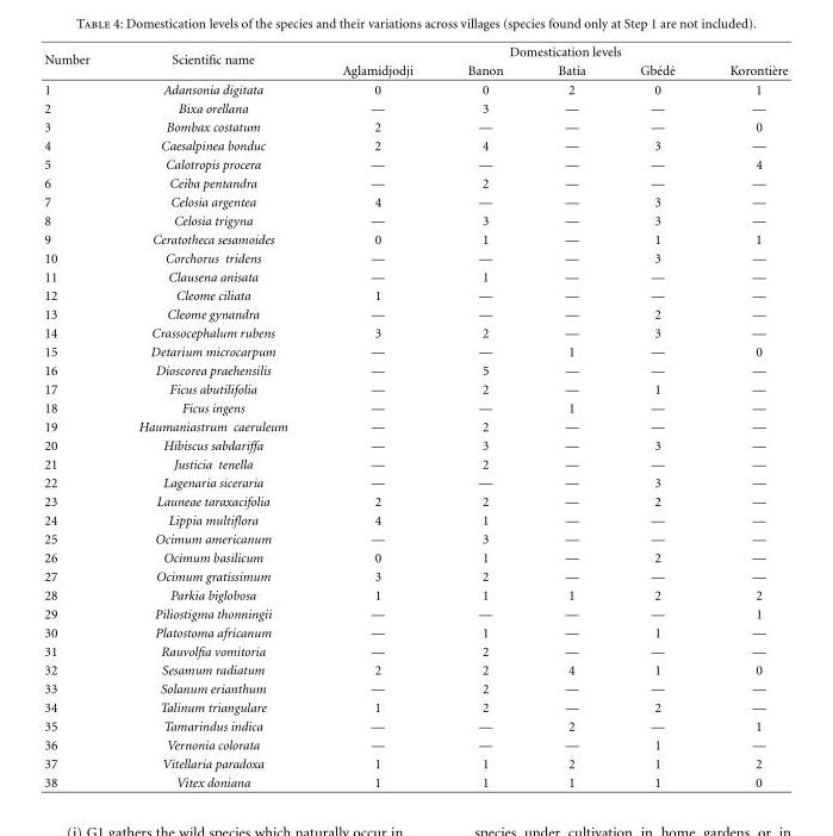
<table><thead><tr><td rowspan="2">Number</td><td rowspan="2">Scientific name</td><td colspan="5">Domestication levels</td></tr><tr><td>Aglamidjodji</td><td>Banon</td><td>Batia</td><td>Gb´ed´e</td><td>Koronti`ere</td></tr></thead><tbody><tr><td>1</td><td>Adansonia digitata</td><td>0</td><td>0</td><td>2</td><td>0</td><td>1</td></tr><tr><td>2</td><td>Bixa orellana</td><td>—</td><td>3</td><td>—</td><td>—</td><td>—</td></tr><tr><td>3</td><td>Bombax costatum</td><td>2</td><td>—</td><td>—</td><td>—</td><td>0</td></tr><tr><td>4</td><td>Caesalpinea bonduc</td><td>2</td><td>4</td><td>—</td><td>3</td><td>—</td></tr><tr><td>5</td><td>Calotropis procera</td><td>—</td><td>—</td><td>—</td><td>—</td><td>4</td></tr><tr><td>6</td><td>Ceiba pentandra</td><td>—</td><td>2</td><td>—</td><td>—</td><td>—</td></tr><tr><td>7</td><td>Celosia argentea</td><td>4</td><td>—</td><td>—</td><td>3</td><td>—</td></tr><tr><td>8</td><td>Celosia trigyna</td><td>—</td><td>3</td><td>—</td><td>3</td><td>—</td></tr><tr><td>9</td><td>Ceratotheca sesamoides</td><td>0</td><td>1</td><td>—</td><td>1</td><td>1</td></tr><tr><td>10</td><td>Corchorus tridens</td><td>—</td><td>—</td><td>—</td><td>3</td><td>—</td></tr><tr><td>11</td><td>Clausena anisata</td><td>—</td><td>1</td><td>—</td><td>—</td><td>—</td></tr><tr><td>12</td><td>Cleome ciliata</td><td>1</td><td>—</td><td>—</td><td>—</td><td>—</td></tr><tr><td>13</td><td>Cleome gynandra</td><td>—</td><td>—</td><td>—</td><td>2</td><td>—</td></tr><tr><td>14</td><td>Crassocephalum rubens</td><td>3</td><td>2</td><td>—</td><td>3</td><td>—</td></tr><tr><td>15</td><td>Detarium microcarpum</td><td>—</td><td>—</td><td>1</td><td>—</td><td>0</td></tr><tr><td>16</td><td>Dioscorea praehensilis</td><td>—</td><td>5</td><td>—</td><td>—</td><td>—</td></tr><tr><td>17</td><td>Ficus abutilifolia</td><td>—</td><td>2</td><td>—</td><td>1</td><td>—</td></tr><tr><td>18</td><td>Ficus ingens</td><td>—</td><td>—</td><td>1</td><td>—</td><td>—</td></tr><tr><td>19</td><td>Haumaniastrum caeruleum</td><td>—</td><td>2</td><td>—</td><td>—</td><td>—</td></tr><tr><td>20</td><td>Hibiscus sabdariffa</td><td>—</td><td>3</td><td>—</td><td>3</td><td>—</td></tr><tr><td>21</td><td>Justicia tenella</td><td>—</td><td>2</td><td>—</td><td>—</td><td>—</td></tr><tr><td>22</td><td>Lagenaria siceraria</td><td>—</td><td>—</td><td>—</td><td>3</td><td>—</td></tr><tr><td>23</td><td>Launeae taraxacifolia</td><td>2</td><td>2</td><td>—</td><td>2</td><td>—</td></tr><tr><td>24</td><td>Lippia multiflora</td><td>4</td><td>1</td><td>—</td><td>—</td><td>—</td></tr><tr><td>25</td><td>Ocimum americanum</td><td>—</td><td>3</td><td>—</td><td>—</td><td>—</td></tr><tr><td>26</td><td>Ocimum basilicum</td><td>0</td><td>1</td><td>—</td><td>2</td><td>—</td></tr><tr><td>27</td><td>Ocimum gratissimum</td><td>3</td><td>2</td><td>—</td><td>—</td><td>—</td></tr><tr><td>28</td><td>Parkia biglobosa</td><td>1</td><td>1</td><td>1</td><td>2</td><td>2</td></tr><tr><td>29</td><td>Piliostigma thonningii</td><td>—</td><td>—</td><td>—</td><td>—</td><td>1</td></tr><tr><td>30</td><td>Platostoma africanum</td><td>—</td><td>1</td><td>—</td><td>1</td><td>—</td></tr><tr><td>31</td><td>Rauvolfia vomitoria</td><td>—</td><td>2</td><td>—</td><td>—</td><td>—</td></tr><tr><td>32</td><td>Sesamum radiatum</td><td>2</td><td>2</td><td>4</td><td>1</td><td>0</td></tr><tr><td>33</td><td>Solanum erianthum</td><td>—</td><td>2</td><td>—</td><td>—</td><td>—</td></tr><tr><td>34</td><td>Talinum triangulare</td><td>1</td><td>2</td><td>—</td><td>2</td><td>—</td></tr><tr><td>35</td><td>Tamarindus indica</td><td>—</td><td>—</td><td>2</td><td>—</td><td>1</td></tr><tr><td>36</td><td>Vernonia colorata</td><td>—</td><td>—</td><td>—</td><td>1</td><td>—</td></tr><tr><td>37</td><td>Vitellaria paradoxa</td><td>1</td><td>1</td><td>2</td><td>1</td><td>2</td></tr><tr><td>38</td><td>Vitex doniana</td><td>1</td><td>1</td><td>1</td><td>1</td><td>0</td></tr></tbody></table>